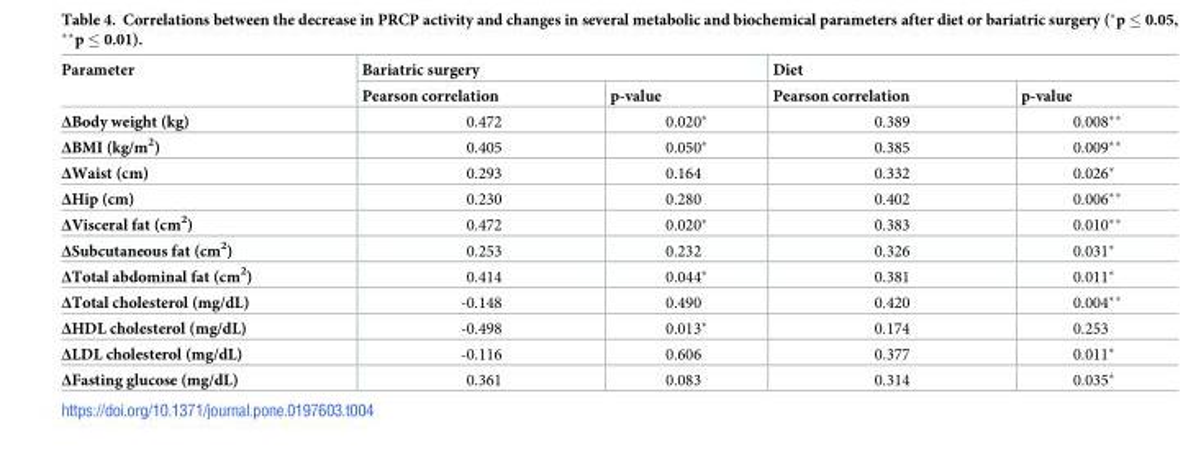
<table><thead><tr><td rowspan="2">Parameter</td><td colspan="2">Bariatric surgery</td><td colspan="2">Diet</td></tr><tr><td>Pearson correlation</td><td>p-value</td><td>Pearson correlation</td><td>p-value</td></tr></thead><tbody><tr><td>ΔBody weight (kg)</td><td>0.472</td><td>0.020*</td><td>0.389</td><td>0.008**</td></tr><tr><td>ΔBMI (kg/m<sup>2</sup>)</td><td>0.405</td><td>0.050*</td><td>0.385</td><td>0.009**</td></tr><tr><td>ΔWaist (cm)</td><td>0.293</td><td>0.164</td><td>0.332</td><td>0.026*</td></tr><tr><td>ΔHip (cm)</td><td>0.230</td><td>0.280</td><td>0.402</td><td>0.006**</td></tr><tr><td>ΔVisceral fat (cm<sup>2</sup>)</td><td>0.472</td><td>0.020*</td><td>0.383</td><td>0.010**</td></tr><tr><td>ΔSubcutaneous fat (cm<sup>2</sup>)</td><td>0.253</td><td>0.232</td><td>0.326</td><td>0.031*</td></tr><tr><td>ΔTotal abdominal fat (cm<sup>2</sup>)</td><td>0.414</td><td>0.044*</td><td>0.381</td><td>0.011*</td></tr><tr><td>ΔTotal cholesterol (mg/dL)</td><td>-0.148</td><td>0.490</td><td>0.420</td><td>0.004**</td></tr><tr><td>ΔHDL cholesterol (mg/dL)</td><td>-0.498</td><td>0.013*</td><td>0.174</td><td>0.253</td></tr><tr><td>ΔLDL cholesterol (mg/dL)</td><td>-0.116</td><td>0.606</td><td>0.377</td><td>0.011*</td></tr><tr><td>ΔFasting glucose (mg/dL)</td><td>0.361</td><td>0.083</td><td>0.314</td><td>0.035*</td></tr></tbody></table>